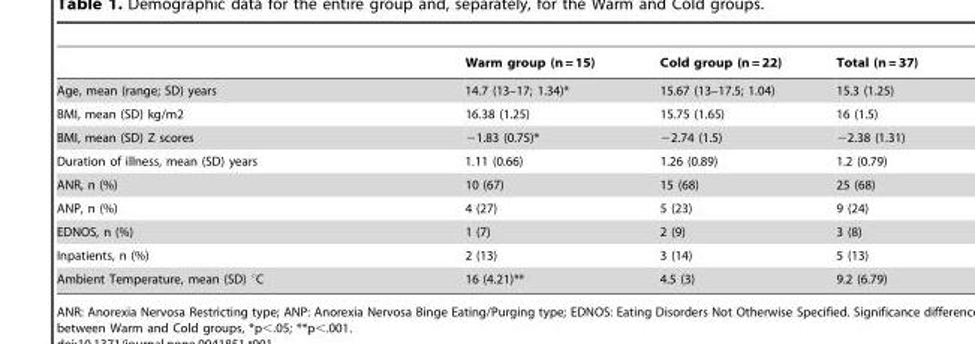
<table><thead><tr><td></td><td>Warm group (n = 15)</td><td>Cold group (n = 22)</td><td>Total (n = 37)</td></tr></thead><tbody><tr><td>Age, mean (range; SD) years</td><td>14.7 (13–17; 1.34)*</td><td>15.67 (13–17.5; 1.04)</td><td>15.3 (1.25)</td></tr><tr><td>BMI, mean (SD) kg/m2</td><td>16.38 (1.25)</td><td>15.75 (1.65)</td><td>16 (1.5)</td></tr><tr><td>BMI, mean (SD) Z scores</td><td>−1.83 (0.75)*</td><td>−2.74 (1.5)</td><td>−2.38 (1.31)</td></tr><tr><td>Duration of illness, mean (SD) years</td><td>1.11 (0.66)</td><td>1.26 (0.89)</td><td>1.2 (0.79)</td></tr><tr><td>ANR, n (%)</td><td>10 (67)</td><td>15 (68)</td><td>25 (68)</td></tr><tr><td>ANP, n (%)</td><td>4 (27)</td><td>5 (23)</td><td>9 (24)</td></tr><tr><td>EDNOS, n (%)</td><td>1 (7)</td><td>2 (9)</td><td>3 (8)</td></tr><tr><td>Inpatients, n (%)</td><td>2 (13)</td><td>3 (14)</td><td>5 (13)</td></tr><tr><td>Ambient Temperature, mean (SD) °C</td><td>16 (4.21)**</td><td>4.5 (3)</td><td>9.2 (6.79)</td></tr></tbody></table>